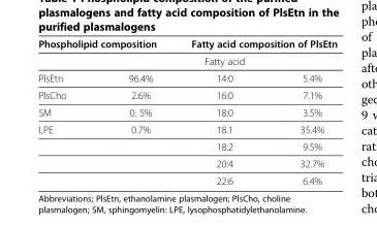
<table><thead><tr><td colspan="2">Phospholipid composition</td><td colspan="2">Fatty acid composition of PlsEtn</td></tr><tr><td></td><td></td><td>Fatty acid</td><td></td></tr></thead><tbody><tr><td>PlsEtn</td><td>96.4%</td><td>14:0</td><td>5.4%</td></tr><tr><td>PlsCho</td><td>2.6%</td><td>16:0</td><td>7.1%</td></tr><tr><td>SM</td><td>0. 5%</td><td>18:0</td><td>3.5%</td></tr><tr><td rowspan="4">LPE</td><td>0.7%</td><td>18.1</td><td>35.4%</td></tr><tr><td></td><td>18:2</td><td>9.5%</td></tr><tr><td></td><td>20:4</td><td>32.7%</td></tr><tr><td></td><td>22:6</td><td>6.4%</td></tr></tbody></table>